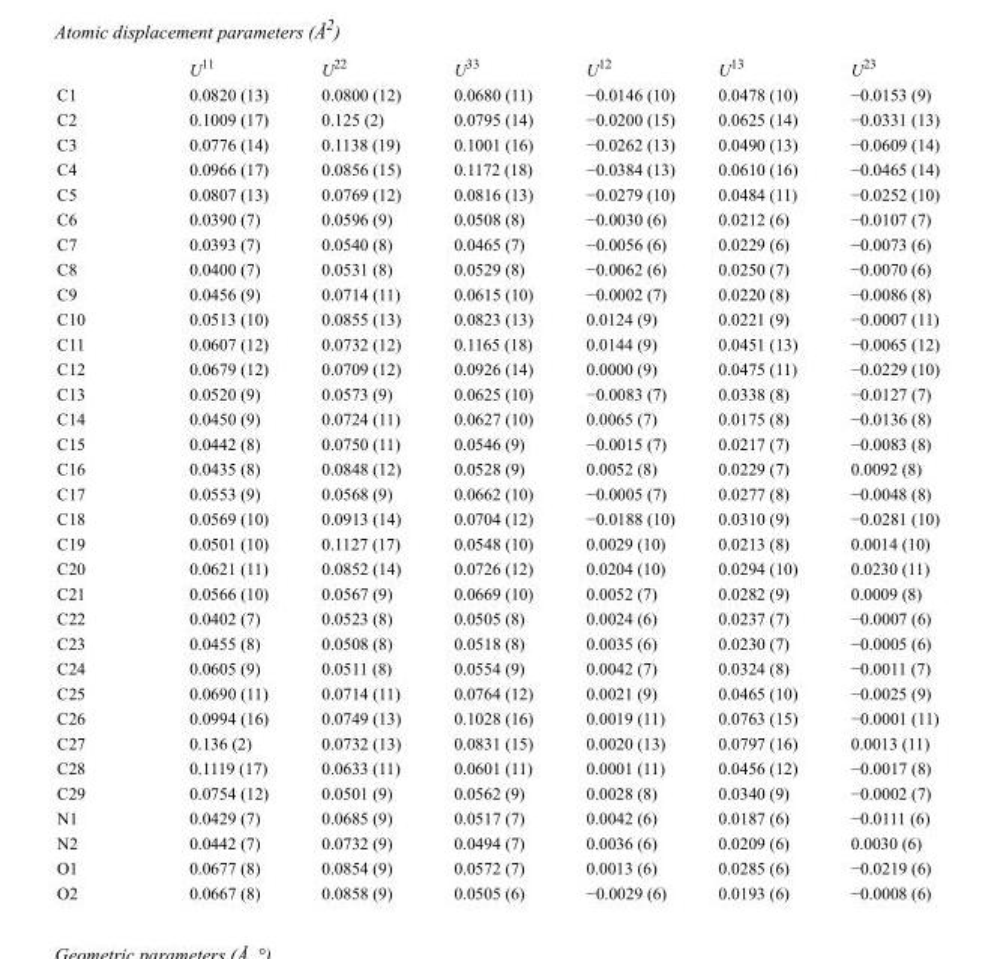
<table><thead><tr><td></td><td>U<sup>11</sup></td><td>U<sup>22</sup></td><td>U<sup>33</sup></td><td>U<sup>12</sup></td><td>U<sup>13</sup></td><td>U<sup>23</sup></td></tr></thead><tbody><tr><td>C1</td><td>0.0820 (13)</td><td>0.0800 (12)</td><td>0.0680 (11)</td><td>−0.0146 (10)</td><td>0.0478 (10)</td><td>−0.0153 (9)</td></tr><tr><td>C2</td><td>0.1009 (17)</td><td>0.125 (2)</td><td>0.0795 (14)</td><td>−0.0200 (15)</td><td>0.0625 (14)</td><td>−0.0331 (13)</td></tr><tr><td>C3</td><td>0.0776 (14)</td><td>0.1138 (19)</td><td>0.1001 (16)</td><td>−0.0262 (13)</td><td>0.0490 (13)</td><td>−0.0609 (14)</td></tr><tr><td>C4</td><td>0.0966 (17)</td><td>0.0856 (15)</td><td>0.1172 (18)</td><td>−0.0384 (13)</td><td>0.0610 (16)</td><td>−0.0465 (14)</td></tr><tr><td>C5</td><td>0.0807 (13)</td><td>0.0769 (12)</td><td>0.0816 (13)</td><td>−0.0279 (10)</td><td>0.0484 (11)</td><td>−0.0252 (10)</td></tr><tr><td>C6</td><td>0.0390 (7)</td><td>0.0596 (9)</td><td>0.0508 (8)</td><td>−0.0030 (6)</td><td>0.0212 (6)</td><td>−0.0107 (7)</td></tr><tr><td>C7</td><td>0.0393 (7)</td><td>0.0540 (8)</td><td>0.0465 (7)</td><td>−0.0056 (6)</td><td>0.0229 (6)</td><td>−0.0073 (6)</td></tr><tr><td>C8</td><td>0.0400 (7)</td><td>0.0531 (8)</td><td>0.0529 (8)</td><td>−0.0062 (6)</td><td>0.0250 (7)</td><td>−0.0070 (6)</td></tr><tr><td>C9</td><td>0.0456 (9)</td><td>0.0714 (11)</td><td>0.0615 (10)</td><td>−0.0002 (7)</td><td>0.0220 (8)</td><td>−0.0086 (8)</td></tr><tr><td>C10</td><td>0.0513 (10)</td><td>0.0855 (13)</td><td>0.0823 (13)</td><td>0.0124 (9)</td><td>0.0221 (9)</td><td>−0.0007 (11)</td></tr><tr><td>C11</td><td>0.0607 (12)</td><td>0.0732 (12)</td><td>0.1165 (18)</td><td>0.0144 (9)</td><td>0.0451 (13)</td><td>−0.0065 (12)</td></tr><tr><td>C12</td><td>0.0679 (12)</td><td>0.0709 (12)</td><td>0.0926 (14)</td><td>0.0000 (9)</td><td>0.0475 (11)</td><td>−0.0229 (10)</td></tr><tr><td>C13</td><td>0.0520 (9)</td><td>0.0573 (9)</td><td>0.0625 (10)</td><td>−0.0083 (7)</td><td>0.0338 (8)</td><td>−0.0127 (7)</td></tr><tr><td>C14</td><td>0.0450 (9)</td><td>0.0724 (11)</td><td>0.0627 (10)</td><td>0.0065 (7)</td><td>0.0175 (8)</td><td>−0.0136 (8)</td></tr><tr><td>C15</td><td>0.0442 (8)</td><td>0.0750 (11)</td><td>0.0546 (9)</td><td>−0.0015 (7)</td><td>0.0217 (7)</td><td>−0.0083 (8)</td></tr><tr><td>C16</td><td>0.0435 (8)</td><td>0.0848 (12)</td><td>0.0528 (9)</td><td>0.0052 (8)</td><td>0.0229 (7)</td><td>0.0092 (8)</td></tr><tr><td>C17</td><td>0.0553 (9)</td><td>0.0568 (9)</td><td>0.0662 (10)</td><td>−0.0005 (7)</td><td>0.0277 (8)</td><td>−0.0048 (8)</td></tr><tr><td>C18</td><td>0.0569 (10)</td><td>0.0913 (14)</td><td>0.0704 (12)</td><td>−0.0188 (10)</td><td>0.0310 (9)</td><td>−0.0281 (10)</td></tr><tr><td>C19</td><td>0.0501 (10)</td><td>0.1127 (17)</td><td>0.0548 (10)</td><td>0.0029 (10)</td><td>0.0213 (8)</td><td>0.0014 (10)</td></tr><tr><td>C20</td><td>0.0621 (11)</td><td>0.0852 (14)</td><td>0.0726 (12)</td><td>0.0204 (10)</td><td>0.0294 (10)</td><td>0.0230 (11)</td></tr><tr><td>C21</td><td>0.0566 (10)</td><td>0.0567 (9)</td><td>0.0669 (10)</td><td>0.0052 (7)</td><td>0.0282 (9)</td><td>0.0009 (8)</td></tr><tr><td>C22</td><td>0.0402 (7)</td><td>0.0523 (8)</td><td>0.0505 (8)</td><td>0.0024 (6)</td><td>0.0237 (7)</td><td>−0.0007 (6)</td></tr><tr><td>C23</td><td>0.0455 (8)</td><td>0.0508 (8)</td><td>0.0518 (8)</td><td>0.0035 (6)</td><td>0.0230 (7)</td><td>−0.0005 (6)</td></tr><tr><td>C24</td><td>0.0605 (9)</td><td>0.0511 (8)</td><td>0.0554 (9)</td><td>0.0042 (7)</td><td>0.0324 (8)</td><td>−0.0011 (7)</td></tr><tr><td>C25</td><td>0.0690 (11)</td><td>0.0714 (11)</td><td>0.0764 (12)</td><td>0.0021 (9)</td><td>0.0465 (10)</td><td>−0.0025 (9)</td></tr><tr><td>C26</td><td>0.0994 (16)</td><td>0.0749 (13)</td><td>0.1028 (16)</td><td>0.0019 (11)</td><td>0.0763 (15)</td><td>−0.0001 (11)</td></tr><tr><td>C27</td><td>0.136 (2)</td><td>0.0732 (13)</td><td>0.0831 (15)</td><td>0.0020 (13)</td><td>0.0797 (16)</td><td>0.0013 (11)</td></tr><tr><td>C28</td><td>0.1119 (17)</td><td>0.0633 (11)</td><td>0.0601 (11)</td><td>0.0001 (11)</td><td>0.0456 (12)</td><td>−0.0017 (8)</td></tr><tr><td>C29</td><td>0.0754 (12)</td><td>0.0501 (9)</td><td>0.0562 (9)</td><td>0.0028 (8)</td><td>0.0340 (9)</td><td>−0.0002 (7)</td></tr><tr><td>N1</td><td>0.0429 (7)</td><td>0.0685 (9)</td><td>0.0517 (7)</td><td>0.0042 (6)</td><td>0.0187 (6)</td><td>−0.0111 (6)</td></tr><tr><td>N2</td><td>0.0442 (7)</td><td>0.0732 (9)</td><td>0.0494 (7)</td><td>0.0036 (6)</td><td>0.0209 (6)</td><td>0.0030 (6)</td></tr><tr><td>O1</td><td>0.0677 (8)</td><td>0.0854 (9)</td><td>0.0572 (7)</td><td>0.0013 (6)</td><td>0.0285 (6)</td><td>−0.0219 (6)</td></tr><tr><td>O2</td><td>0.0667 (8)</td><td>0.0858 (9)</td><td>0.0505 (6)</td><td>−0.0029 (6)</td><td>0.0193 (6)</td><td>−0.0008 (6)</td></tr></tbody></table>